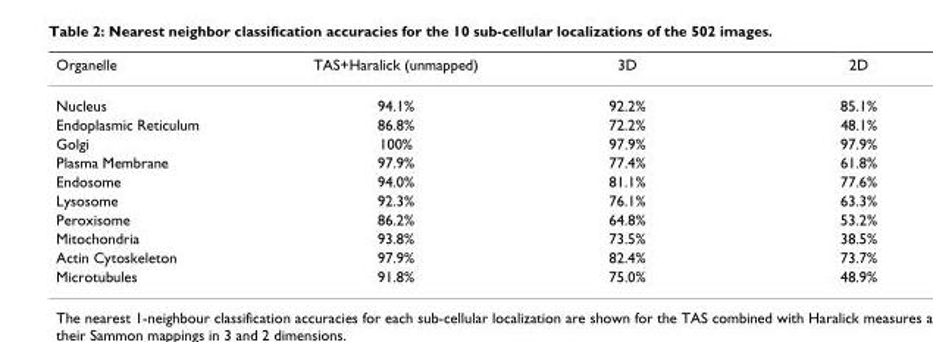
<table><thead><tr><td>Organelle</td><td>TAS+Haralick (unmapped)</td><td>3D</td><td>2D</td></tr></thead><tbody><tr><td>Nucleus</td><td>94.1%</td><td>92.2%</td><td>85.1%</td></tr><tr><td>Endoplasmic Reticulum</td><td>86.8%</td><td>72.2%</td><td>48.1%</td></tr><tr><td>Golgi</td><td>100%</td><td>97.9%</td><td>97.9%</td></tr><tr><td>Plasma Membrane</td><td>97.9%</td><td>77.4%</td><td>61.8%</td></tr><tr><td>Endosome</td><td>94.0%</td><td>81.1%</td><td>77.6%</td></tr><tr><td>Lysosome</td><td>92.3%</td><td>76.1%</td><td>63.3%</td></tr><tr><td>Peroxisome</td><td>86.2%</td><td>64.8%</td><td>53.2%</td></tr><tr><td>Mitochondria</td><td>93.8%</td><td>73.5%</td><td>38.5%</td></tr><tr><td>Actin Cytoskeleton</td><td>97.9%</td><td>82.4%</td><td>73.7%</td></tr><tr><td>Microtubules</td><td>91.8%</td><td>75.0%</td><td>48.9%</td></tr></tbody></table>